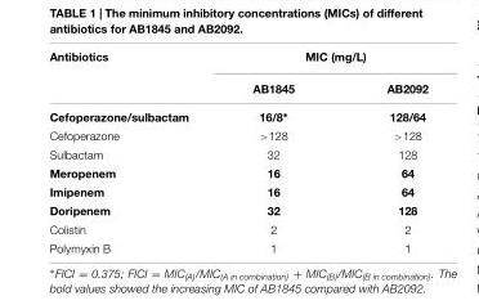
<table><thead><tr><td rowspan="2">Antibiotics</td><td colspan="2">MIC (mg/L)</td></tr><tr><td>AB1845</td><td>AB2092</td></tr></thead><tbody><tr><td>Cefoperazone/sulbactam</td><td>16/8∗</td><td>128/64</td></tr><tr><td>Cefoperazone</td><td>&gt;128</td><td>&gt;128</td></tr><tr><td>Sulbactam</td><td>32</td><td>128</td></tr><tr><td>Meropenem</td><td>16</td><td>64</td></tr><tr><td>Imipenem</td><td>16</td><td>64</td></tr><tr><td>Doripenem</td><td>32</td><td>128</td></tr><tr><td>Colistin</td><td>2</td><td>2</td></tr><tr><td>Polymyxin B</td><td>1</td><td>1</td></tr></tbody></table>